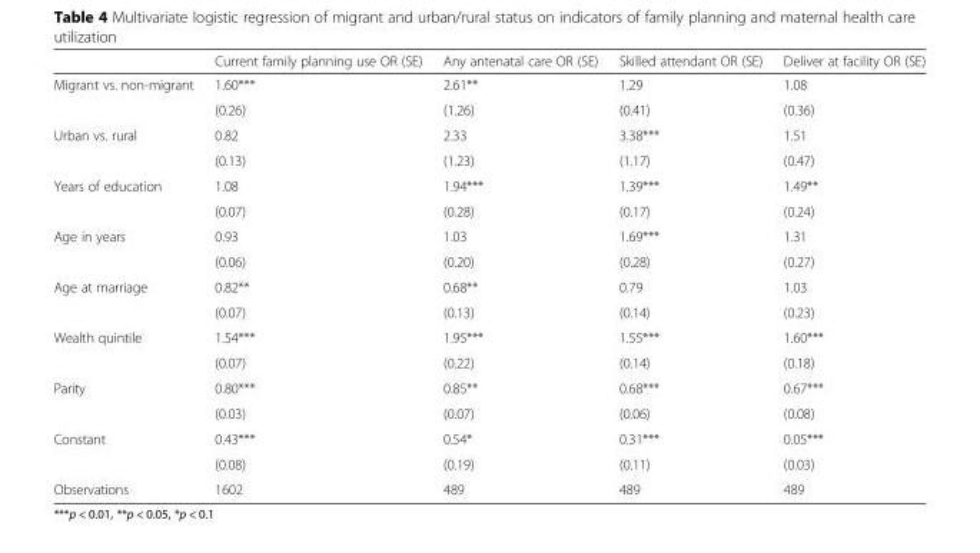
<table><thead><tr><td></td><td>Current family planning use OR (SE)</td><td>Any antenatal care OR (SE)</td><td>Skilled attendant OR (SE)</td><td>Deliver at facility OR (SE)</td></tr></thead><tbody><tr><td rowspan="2">Migrant vs. non-migrant</td><td>1.60***</td><td>2.61**</td><td>1.29</td><td>1.08</td></tr><tr><td>(0.26)</td><td>(1.26)</td><td>(0.41)</td><td>(0.36)</td></tr><tr><td rowspan="2">Urban vs. rural</td><td>0.82</td><td>2.33</td><td>3.38***</td><td>1.51</td></tr><tr><td>(0.13)</td><td>(1.23)</td><td>(1.17)</td><td>(0.47)</td></tr><tr><td rowspan="2">Years of education</td><td>1.08</td><td>1.94***</td><td>1.39***</td><td>1.49**</td></tr><tr><td>(0.07)</td><td>(0.28)</td><td>(0.17)</td><td>(0.24)</td></tr><tr><td rowspan="2">Age in years</td><td>0.93</td><td>1.03</td><td>1.69***</td><td>1.31</td></tr><tr><td>(0.06)</td><td>(0.20)</td><td>(0.28)</td><td>(0.27)</td></tr><tr><td rowspan="2">Age at marriage</td><td>0.82**</td><td>0.68**</td><td>0.79</td><td>1.03</td></tr><tr><td>(0.07)</td><td>(0.13)</td><td>(0.14)</td><td>(0.23)</td></tr><tr><td rowspan="2">Wealth quintile</td><td>1.54***</td><td>1.95***</td><td>1.55***</td><td>1.60***</td></tr><tr><td>(0.07)</td><td>(0.22)</td><td>(0.14)</td><td>(0.18)</td></tr><tr><td rowspan="2">Parity</td><td>0.80***</td><td>0.85**</td><td>0.68***</td><td>0.67***</td></tr><tr><td>(0.03)</td><td>(0.07)</td><td>(0.06)</td><td>(0.08)</td></tr><tr><td rowspan="2">Constant</td><td>0.43***</td><td>0.54*</td><td>0.31***</td><td>0.05***</td></tr><tr><td>(0.08)</td><td>(0.19)</td><td>(0.11)</td><td>(0.03)</td></tr><tr><td>Observations</td><td>1602</td><td>489</td><td>489</td><td>489</td></tr></tbody></table>